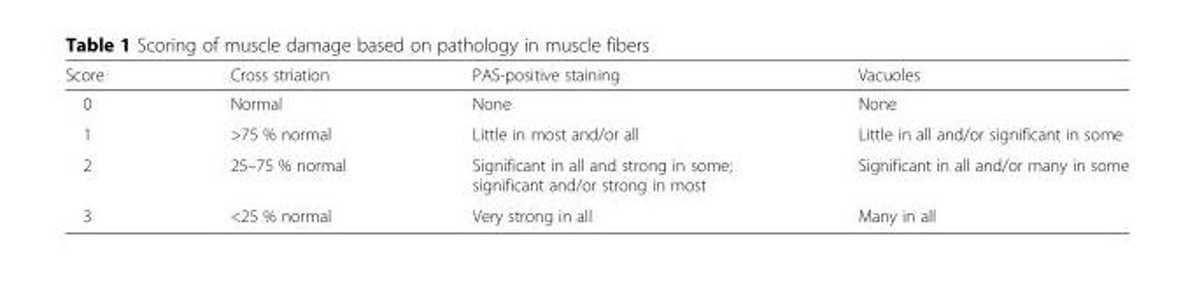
<table><thead><tr><td>Score</td><td>Cross striation</td><td>PAS-positive staining</td><td>Vacuoles</td></tr></thead><tbody><tr><td>0</td><td>Normal</td><td>None</td><td>None</td></tr><tr><td>1</td><td>&gt;75 % normal</td><td>Little in most and/or all</td><td>Little in all and/or significant in some</td></tr><tr><td>2</td><td>25–75 % normal</td><td>Significant in all and strong in some; significant and/or strong in most</td><td>Significant in all and/or many in some</td></tr><tr><td>3</td><td>&lt;25 % normal</td><td>Very strong in all</td><td>Many in all</td></tr></tbody></table>